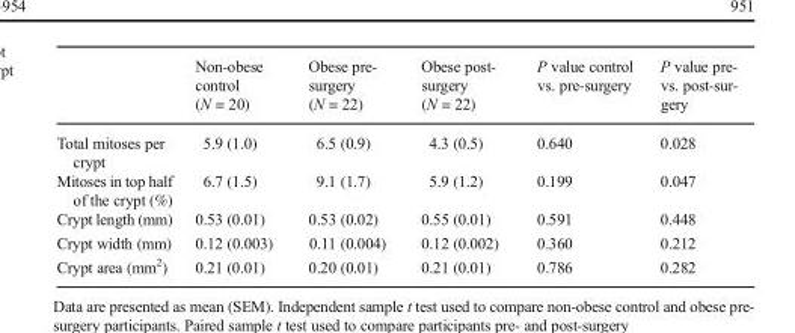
<table><thead><tr><td></td><td>Non-obese control (N = 20)</td><td>Obese pre- surgery (N = 22)</td><td>Obese post- surgery (N = 22)</td><td>P value control vs. pre-surgery</td><td>P value pre- vs. post-sur- gery</td></tr></thead><tbody><tr><td>Total mitoses per crypt</td><td>5.9 (1.0)</td><td>6.5 (0.9)</td><td>4.3 (0.5)</td><td>0.640</td><td>0.028</td></tr><tr><td>Mitoses in top half of the crypt (%)</td><td>6.7 (1.5)</td><td>9.1 (1.7)</td><td>5.9 (1.2)</td><td>0.199</td><td>0.047</td></tr><tr><td>Crypt length (mm)</td><td>0.53 (0.01)</td><td>0.53 (0.02)</td><td>0.55 (0.01)</td><td>0.591</td><td>0.448</td></tr><tr><td>Crypt width (mm)</td><td>0.12 (0.003)</td><td>0.11 (0.004)</td><td>0.12 (0.002)</td><td>0.360</td><td>0.212</td></tr><tr><td>Crypt area (mm<sup>2</sup>)</td><td>0.21 (0.01)</td><td>0.20 (0.01)</td><td>0.21 (0.01)</td><td>0.786</td><td>0.282</td></tr></tbody></table>